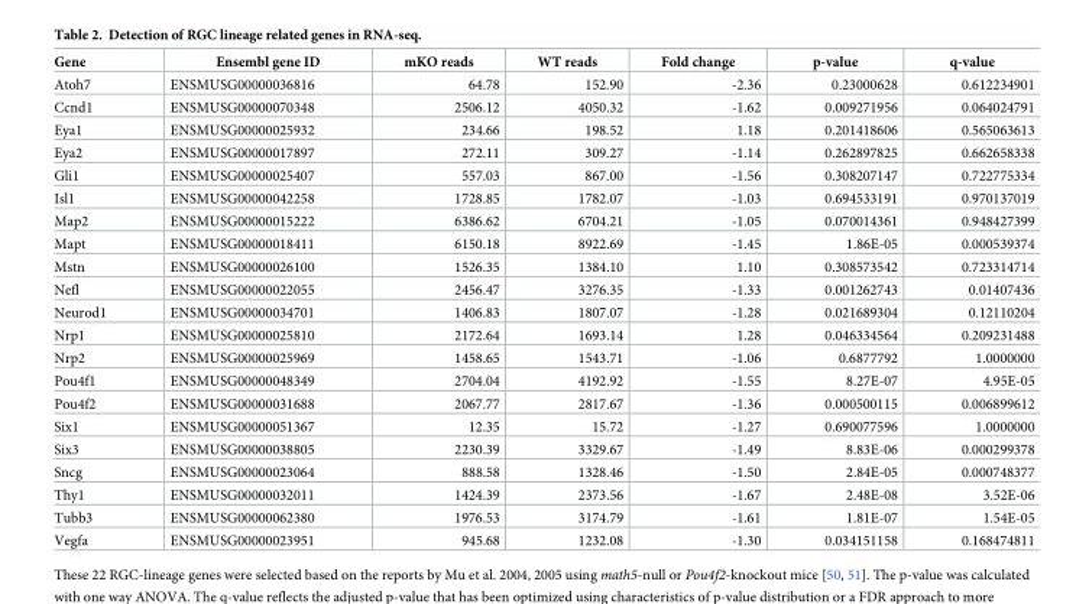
<table><thead><tr><td>Gene</td><td>Ensembl gene ID</td><td>mKO reads</td><td>WT reads</td><td>Fold change</td><td>p-value</td><td>q-value</td></tr></thead><tbody><tr><td>Atoh7</td><td>ENSMUSG00000036816</td><td>64.78</td><td>152.90</td><td>-2.36</td><td>0.23000628</td><td>0.612234901</td></tr><tr><td>Ccnd1</td><td>ENSMUSG00000070348</td><td>2506.12</td><td>4050.32</td><td>-1.62</td><td>0.009271956</td><td>0.064024791</td></tr><tr><td>Eya1</td><td>ENSMUSG00000025932</td><td>234.66</td><td>198.52</td><td>1.18</td><td>0.201418606</td><td>0.565063613</td></tr><tr><td>Eya2</td><td>ENSMUSG00000017897</td><td>272.11</td><td>309.27</td><td>-1.14</td><td>0.262897825</td><td>0.662658338</td></tr><tr><td>Gli1</td><td>ENSMUSG00000025407</td><td>557.03</td><td>867.00</td><td>-1.56</td><td>0.308207147</td><td>0.722775334</td></tr><tr><td>Isl1</td><td>ENSMUSG00000042258</td><td>1728.85</td><td>1782.07</td><td>-1.03</td><td>0.694533191</td><td>0.970137019</td></tr><tr><td>Map2</td><td>ENSMUSG00000015222</td><td>6386.62</td><td>6704.21</td><td>-1.05</td><td>0.070014361</td><td>0.948427399</td></tr><tr><td>Mapt</td><td>ENSMUSG00000018411</td><td>6150.18</td><td>8922.69</td><td>-1.45</td><td>1.86E-05</td><td>0.000539374</td></tr><tr><td>Mstn</td><td>ENSMUSG00000026100</td><td>1526.35</td><td>1384.10</td><td>1.10</td><td>0.308573542</td><td>0.723314714</td></tr><tr><td>Nefl</td><td>ENSMUSG00000022055</td><td>2456.47</td><td>3276.35</td><td>-1.33</td><td>0.001262743</td><td>0.01407436</td></tr><tr><td>Neurod1</td><td>ENSMUSG00000034701</td><td>1406.83</td><td>1807.07</td><td>-1.28</td><td>0.021689304</td><td>0.12110204</td></tr><tr><td>Nrp1</td><td>ENSMUSG00000025810</td><td>2172.64</td><td>1693.14</td><td>1.28</td><td>0.046334564</td><td>0.209231488</td></tr><tr><td>Nrp2</td><td>ENSMUSG00000025969</td><td>1458.65</td><td>1543.71</td><td>-1.06</td><td>0.6877792</td><td>1.0000000</td></tr><tr><td>Pou4f1</td><td>ENSMUSG00000048349</td><td>2704.04</td><td>4192.92</td><td>-1.55</td><td>8.27E-07</td><td>4.95E-05</td></tr><tr><td>Pou4f2</td><td>ENSMUSG00000031688</td><td>2067.77</td><td>2817.67</td><td>-1.36</td><td>0.000500115</td><td>0.006899612</td></tr><tr><td>Six1</td><td>ENSMUSG00000051367</td><td>12.35</td><td>15.72</td><td>-1.27</td><td>0.690077596</td><td>1.0000000</td></tr><tr><td>Six3</td><td>ENSMUSG00000038805</td><td>2230.39</td><td>3329.67</td><td>-1.49</td><td>8.83E-06</td><td>0.000299378</td></tr><tr><td>Sncg</td><td>ENSMUSG00000023064</td><td>888.58</td><td>1328.46</td><td>-1.50</td><td>2.84E-05</td><td>0.000748377</td></tr><tr><td>Thy1</td><td>ENSMUSG00000032011</td><td>1424.39</td><td>2373.56</td><td>-1.67</td><td>2.48E-08</td><td>3.52E-06</td></tr><tr><td>Tubb3</td><td>ENSMUSG00000062380</td><td>1976.53</td><td>3174.79</td><td>-1.61</td><td>1.81E-07</td><td>1.54E-05</td></tr><tr><td>Vegfa</td><td>ENSMUSG00000023951</td><td>945.68</td><td>1232.08</td><td>-1.30</td><td>0.034151158</td><td>0.168474811</td></tr></tbody></table>